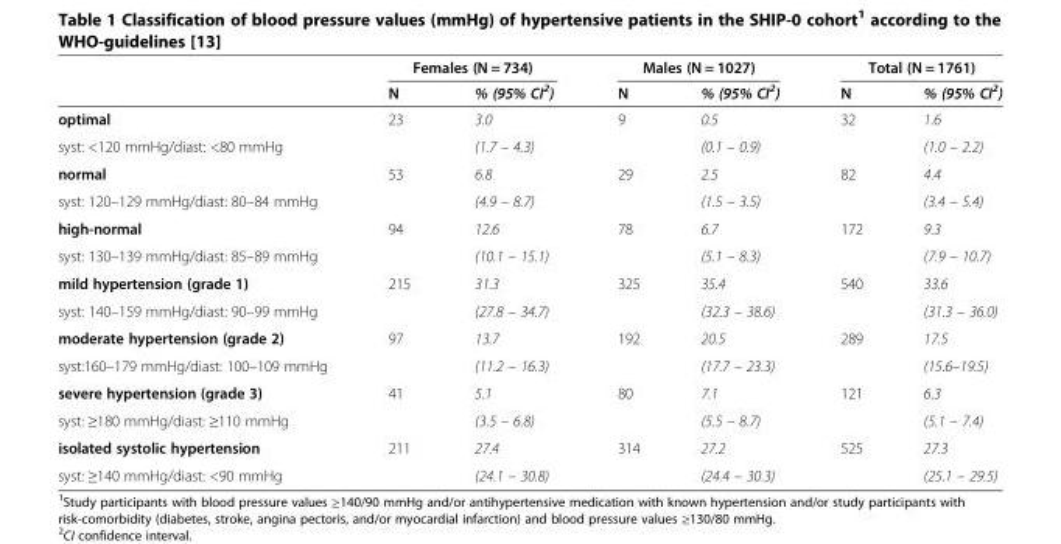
<table><thead><tr><td rowspan="2"></td><td colspan="2">Females (N = 734)</td><td colspan="2">Males (N = 1027)</td><td colspan="2">Total (N = 1761)</td></tr><tr><td>N</td><td>% (95% CI<sup>2</sup>)</td><td>N</td><td>% (95% CI<sup>2</sup>)</td><td>N</td><td>% (95% CI<sup>2</sup>)</td></tr></thead><tbody><tr><td>optimal</td><td>23</td><td>3.0</td><td>9</td><td>0.5</td><td>32</td><td>1.6</td></tr><tr><td>syst: &lt;120 mmHg/diast: &lt;80 mmHg</td><td></td><td>(1.7 – 4.3)</td><td></td><td>(0.1 – 0.9)</td><td></td><td>(1.0 – 2.2)</td></tr><tr><td>normal</td><td>53</td><td>6.8</td><td>29</td><td>2.5</td><td>82</td><td>4.4</td></tr><tr><td>syst: 120–129 mmHg/diast: 80–84 mmHg</td><td></td><td>(4.9 – 8.7)</td><td></td><td>(1.5 – 3.5)</td><td></td><td>(3.4 – 5.4)</td></tr><tr><td>high-normal</td><td>94</td><td>12.6</td><td>78</td><td>6.7</td><td>172</td><td>9.3</td></tr><tr><td>syst: 130–139 mmHg/diast: 85–89 mmHg</td><td></td><td>(10.1 – 15.1)</td><td></td><td>(5.1 – 8.3)</td><td></td><td>(7.9 – 10.7)</td></tr><tr><td>mild hypertension (grade 1)</td><td>215</td><td>31.3</td><td>325</td><td>35.4</td><td>540</td><td>33.6</td></tr><tr><td>syst: 140–159 mmHg/diast: 90–99 mmHg</td><td></td><td>(27.8 – 34.7)</td><td></td><td>(32.3 – 38.6)</td><td></td><td>(31.3 – 36.0)</td></tr><tr><td>moderate hypertension (grade 2)</td><td>97</td><td>13.7</td><td>192</td><td>20.5</td><td>289</td><td>17.5</td></tr><tr><td>syst:160–179 mmHg/diast: 100–109 mmHg</td><td></td><td>(11.2 – 16.3)</td><td></td><td>(17.7 – 23.3)</td><td></td><td>(15.6–19.5)</td></tr><tr><td>severe hypertension (grade 3)</td><td>41</td><td>5.1</td><td>80</td><td>7.1</td><td>121</td><td>6.3</td></tr><tr><td>syst: ≥180 mmHg/diast: ≥110 mmHg</td><td></td><td>(3.5 – 6.8)</td><td></td><td>(5.5 – 8.7)</td><td></td><td>(5.1 – 7.4)</td></tr><tr><td>isolated systolic hypertension</td><td>211</td><td>27.4</td><td>314</td><td>27.2</td><td>525</td><td>27.3</td></tr><tr><td>syst: ≥140 mmHg/diast: &lt;90 mmHg</td><td></td><td>(24.1 – 30.8)</td><td></td><td>(24.4 – 30.3)</td><td></td><td>(25.1 – 29.5)</td></tr></tbody></table>